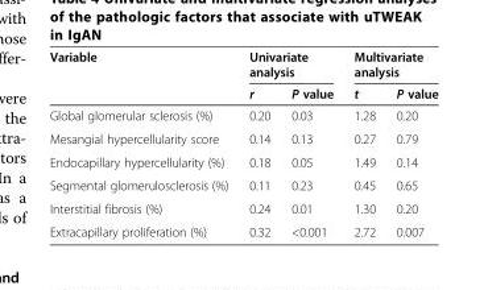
<table><thead><tr><td rowspan="2">Variable</td><td colspan="2">Univariate analysis</td><td colspan="2">Multivariate analysis</td></tr><tr><td>r</td><td>P value</td><td>t</td><td>P value</td></tr></thead><tbody><tr><td>Global glomerular sclerosis (%)</td><td>0.20</td><td>0.03</td><td>1.28</td><td>0.20</td></tr><tr><td>Mesangial hypercellularity score</td><td>0.14</td><td>0.13</td><td>0.27</td><td>0.79</td></tr><tr><td>Endocapillary hypercellularity (%)</td><td>0.18</td><td>0.05</td><td>1.49</td><td>0.14</td></tr><tr><td>Segmental glomerulosclerosis (%)</td><td>0.11</td><td>0.23</td><td>0.45</td><td>0.65</td></tr><tr><td>Interstitial fibrosis (%)</td><td>0.24</td><td>0.01</td><td>1.30</td><td>0.20</td></tr><tr><td>Extracapillary proliferation (%)</td><td>0.32</td><td>&lt;0.001</td><td>2.72</td><td>0.007</td></tr></tbody></table>